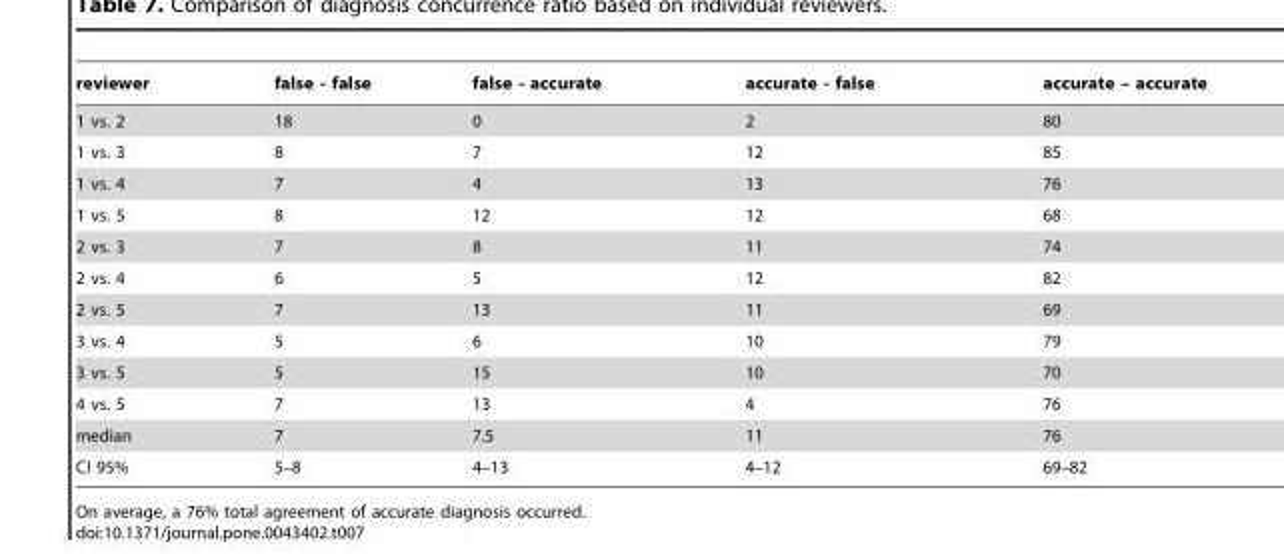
<table><thead><tr><td>reviewer</td><td>false - false</td><td>false - accurate</td><td>accurate - false</td><td>accurate – accurate</td></tr></thead><tbody><tr><td>1 vs. 2</td><td>18</td><td>0</td><td>2</td><td>80</td></tr><tr><td>1 vs. 3</td><td>8</td><td>7</td><td>12</td><td>85</td></tr><tr><td>1 vs. 4</td><td>7</td><td>4</td><td>13</td><td>76</td></tr><tr><td>1 vs. 5</td><td>8</td><td>12</td><td>12</td><td>68</td></tr><tr><td>2 vs. 3</td><td>7</td><td>8</td><td>11</td><td>74</td></tr><tr><td>2 vs. 4</td><td>6</td><td>5</td><td>12</td><td>82</td></tr><tr><td>2 vs. 5</td><td>7</td><td>13</td><td>11</td><td>69</td></tr><tr><td>3 vs. 4</td><td>5</td><td>6</td><td>10</td><td>79</td></tr><tr><td>3 vs. 5</td><td>5</td><td>15</td><td>10</td><td>70</td></tr><tr><td>4 vs. 5</td><td>7</td><td>13</td><td>4</td><td>76</td></tr><tr><td>median</td><td>7</td><td>7.5</td><td>11</td><td>76</td></tr><tr><td>CI 95%</td><td>5–8</td><td>4–13</td><td>4–12</td><td>69–82</td></tr></tbody></table>